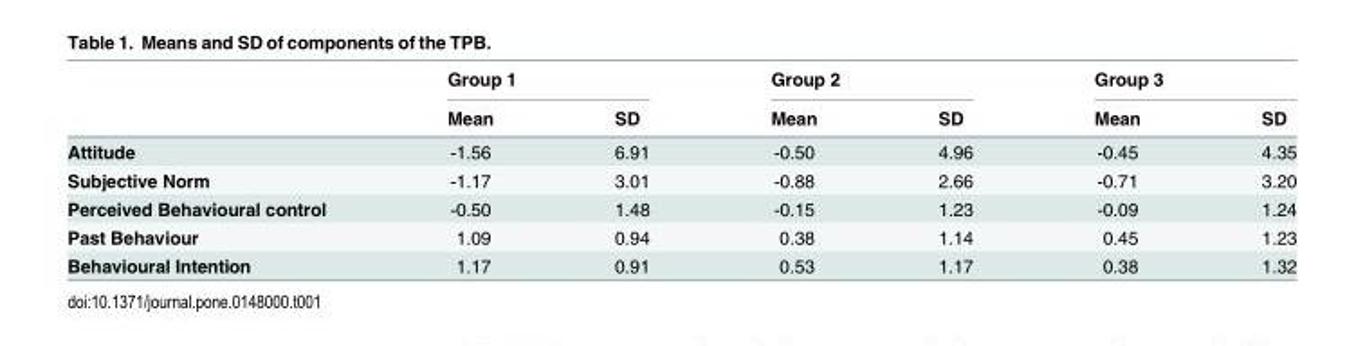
<table><thead><tr><td rowspan="2"></td><td colspan="2">Group 1</td><td colspan="2">Group 2</td><td colspan="2">Group 3</td></tr><tr><td>Mean</td><td>SD</td><td>Mean</td><td>SD</td><td>Mean</td><td>SD</td></tr></thead><tbody><tr><td>Attitude</td><td>-1.56</td><td>6.91</td><td>-0.50</td><td>4.96</td><td>-0.45</td><td>4.35</td></tr><tr><td>Subjective Norm</td><td>-1.17</td><td>3.01</td><td>-0.88</td><td>2.66</td><td>-0.71</td><td>3.20</td></tr><tr><td>Perceived Behavioural control</td><td>-0.50</td><td>1.48</td><td>-0.15</td><td>1.23</td><td>-0.09</td><td>1.24</td></tr><tr><td>Past Behaviour</td><td>1.09</td><td>0.94</td><td>0.38</td><td>1.14</td><td>0.45</td><td>1.23</td></tr><tr><td>Behavioural Intention</td><td>1.17</td><td>0.91</td><td>0.53</td><td>1.17</td><td>0.38</td><td>1.32</td></tr></tbody></table>